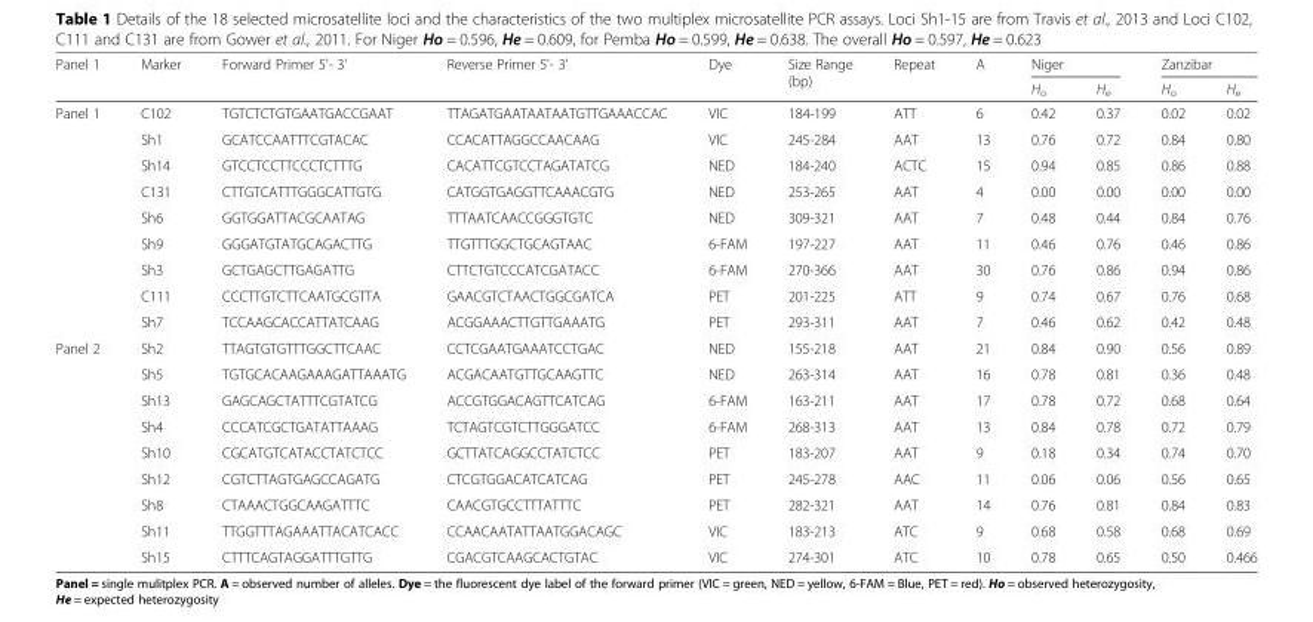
<table><thead><tr><td rowspan="2">Panel 1</td><td rowspan="2">Marker</td><td rowspan="2">Forward Primer 5&#x27;- 3&#x27;</td><td rowspan="2">Reverse Primer 5&#x27;- 3&#x27;</td><td rowspan="2">Dye</td><td rowspan="2">Size Range (bp)</td><td rowspan="2">Repeat</td><td rowspan="2">A</td><td colspan="2">Niger</td><td colspan="2">Zanzibar</td></tr><tr><td>H<sub>o</sub></td><td>H<sub>e</sub></td><td>H<sub>o</sub></td><td>H<sub>e</sub></td></tr></thead><tbody><tr><td rowspan="9">Panel 1</td><td>C102</td><td>TGTCTCTGTGAATGACCGAAT</td><td>TTAGATGAATAATAATGTTGAAACCAC</td><td>VIC</td><td>184-199</td><td>ATT</td><td>6</td><td>0.42</td><td>0.37</td><td>0.02</td><td>0.02</td></tr><tr><td>Sh1</td><td>GCATCCAATTTCGTACAC</td><td>CCACATTAGGCCAACAAG</td><td>VIC</td><td>245-284</td><td>AAT</td><td>13</td><td>0.76</td><td>0.72</td><td>0.84</td><td>0.80</td></tr><tr><td>Sh14</td><td>GTCCTCCTTCCCTCTTTG</td><td>CACATTCGTCCTAGATATCG</td><td>NED</td><td>184-240</td><td>ACTC</td><td>15</td><td>0.94</td><td>0.85</td><td>0.86</td><td>0.88</td></tr><tr><td>C131</td><td>CTTGTCATTTGGGCATTGTG</td><td>CATGGTGAGGTTCAAACGTG</td><td>NED</td><td>253-265</td><td>AAT</td><td>4</td><td>0.00</td><td>0.00</td><td>0.00</td><td>0.00</td></tr><tr><td>Sh6</td><td>GGTGGATTACGCAATAG</td><td>TTTAATCAACCGGGTGTC</td><td>NED</td><td>309-321</td><td>AAT</td><td>7</td><td>0.48</td><td>0.44</td><td>0.84</td><td>0.76</td></tr><tr><td>Sh9</td><td>GGGATGTATGCAGACTTG</td><td>TTGTTTGGCTGCAGTAAC</td><td>6-FAM</td><td>197-227</td><td>AAT</td><td>11</td><td>0.46</td><td>0.76</td><td>0.46</td><td>0.86</td></tr><tr><td>Sh3</td><td>GCTGAGCTTGAGATTG</td><td>CTTCTGTCCCATCGATACC</td><td>6-FAM</td><td>270-366</td><td>AAT</td><td>30</td><td>0.76</td><td>0.86</td><td>0.94</td><td>0.86</td></tr><tr><td>C111</td><td>CCCTTGTCTTCAATGCGTTA</td><td>GAACGTCTAACTGGCGATCA</td><td>PET</td><td>201-225</td><td>ATT</td><td>9</td><td>0.74</td><td>0.67</td><td>0.76</td><td>0.68</td></tr><tr><td>Sh7</td><td>TCCAAGCACCATTATCAAG</td><td>ACGGAAACTTGTTGAAATG</td><td>PET</td><td>293-311</td><td>AAT</td><td>7</td><td>0.46</td><td>0.62</td><td>0.42</td><td>0.48</td></tr><tr><td rowspan="9">Panel 2</td><td>Sh2</td><td>TTAGTGTGTTTGGCTTCAAC</td><td>CCTCGAATGAAATCCTGAC</td><td>NED</td><td>155-218</td><td>AAT</td><td>21</td><td>0.84</td><td>0.90</td><td>0.56</td><td>0.89</td></tr><tr><td>Sh5</td><td>TGTGCACAAGAAAGATTAAATG</td><td>ACGACAATGTTGCAAGTTC</td><td>NED</td><td>263-314</td><td>AAT</td><td>16</td><td>0.78</td><td>0.81</td><td>0.36</td><td>0.48</td></tr><tr><td>Sh13</td><td>GAGCAGCTATTTCGTATCG</td><td>ACCGTGGACAGTTCATCAG</td><td>6-FAM</td><td>163-211</td><td>AAT</td><td>17</td><td>0.78</td><td>0.72</td><td>0.68</td><td>0.64</td></tr><tr><td>Sh4</td><td>CCCATCGCTGATATTAAAG</td><td>TCTAGTCGTCTTGGGATCC</td><td>6-FAM</td><td>268-313</td><td>AAT</td><td>13</td><td>0.84</td><td>0.78</td><td>0.72</td><td>0.79</td></tr><tr><td>Sh10</td><td>CGCATGTCATACCTATCTCC</td><td>GCTTATCAGGCCTATCTCC</td><td>PET</td><td>183-207</td><td>AAT</td><td>9</td><td>0.18</td><td>0.34</td><td>0.74</td><td>0.70</td></tr><tr><td>Sh12</td><td>CGTCTTAGTGAGCCAGATG</td><td>CTCGTGGACATCATCAG</td><td>PET</td><td>245-278</td><td>AAC</td><td>11</td><td>0.06</td><td>0.06</td><td>0.56</td><td>0.65</td></tr><tr><td>Sh8</td><td>CTAAACTGGCAAGATTTC</td><td>CAACGTGCCTTTATTTC</td><td>PET</td><td>282-321</td><td>AAT</td><td>14</td><td>0.76</td><td>0.81</td><td>0.84</td><td>0.83</td></tr><tr><td>Sh11</td><td>TTGGTTTAGAAATTACATCACC</td><td>CCAACAATATTAATGGACAGC</td><td>VIC</td><td>183-213</td><td>ATC</td><td>9</td><td>0.68</td><td>0.58</td><td>0.68</td><td>0.69</td></tr><tr><td>Sh15</td><td>CTTTCAGTAGGATTTGTTG</td><td>CGACGTCAAGCACTGTAC</td><td>VIC</td><td>274-301</td><td>ATC</td><td>10</td><td>0.78</td><td>0.65</td><td>0.50</td><td>0.466</td></tr></tbody></table>